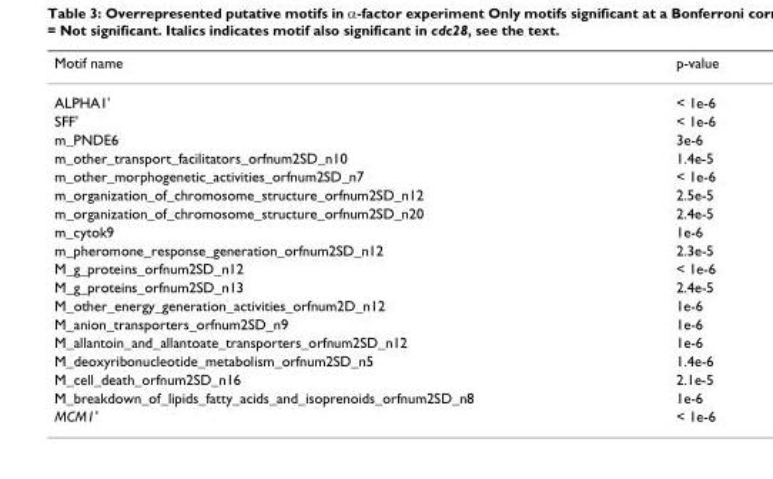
<table><thead><tr><td>Motif name</td><td>p-value</td></tr></thead><tbody><tr><td>ALPHA1&#x27;</td><td>&lt; 1e-6</td></tr><tr><td>SFF&#x27;</td><td>&lt; 1e-6</td></tr><tr><td>m_PNDE6</td><td>3e-6</td></tr><tr><td>m_other_transport_facilitators_orfnum2SD_n10</td><td>1.4e-5</td></tr><tr><td>m_other_morphogenetic_activities_orfnum2SD_n7</td><td>&lt; 1e-6</td></tr><tr><td>m_organization_of_chromosome_structure_orfnum2SD_n12</td><td>2.5e-5</td></tr><tr><td>m_organization_of_chromosome_structure_orfnum2SD_n20</td><td>2.4e-5</td></tr><tr><td>m_cytok9</td><td>1e-6</td></tr><tr><td>m_pheromone_response_generation_orfnum2SD_n12</td><td>2.3e-5</td></tr><tr><td>M_g_proteins_orfnum2SD_n12</td><td>&lt; 1e-6</td></tr><tr><td>M_g_proteins_orfnum2SD_n13</td><td>2.4e-5</td></tr><tr><td>M_other_energy_generation_activities_orfnum2D_n12</td><td>1e-6</td></tr><tr><td>M_anion_transporters_orfnum2SD_n9</td><td>1e-6</td></tr><tr><td>M_allantoin_and_allantoate_transporters_orfnum2SD_n12</td><td>1e-6</td></tr><tr><td>M_deoxyribonucleotide_metabolism_orfnum2SD_n5</td><td>1.4e-6</td></tr><tr><td>M_cell_death_orfnum2SD_n16</td><td>2.1e-5</td></tr><tr><td>M_breakdown_of_lipids_fatty_acids_and_isoprenoids_orfnum2SD_n8</td><td>1e-6</td></tr><tr><td>MCM1&#x27;</td><td>&lt; 1e-6</td></tr></tbody></table>